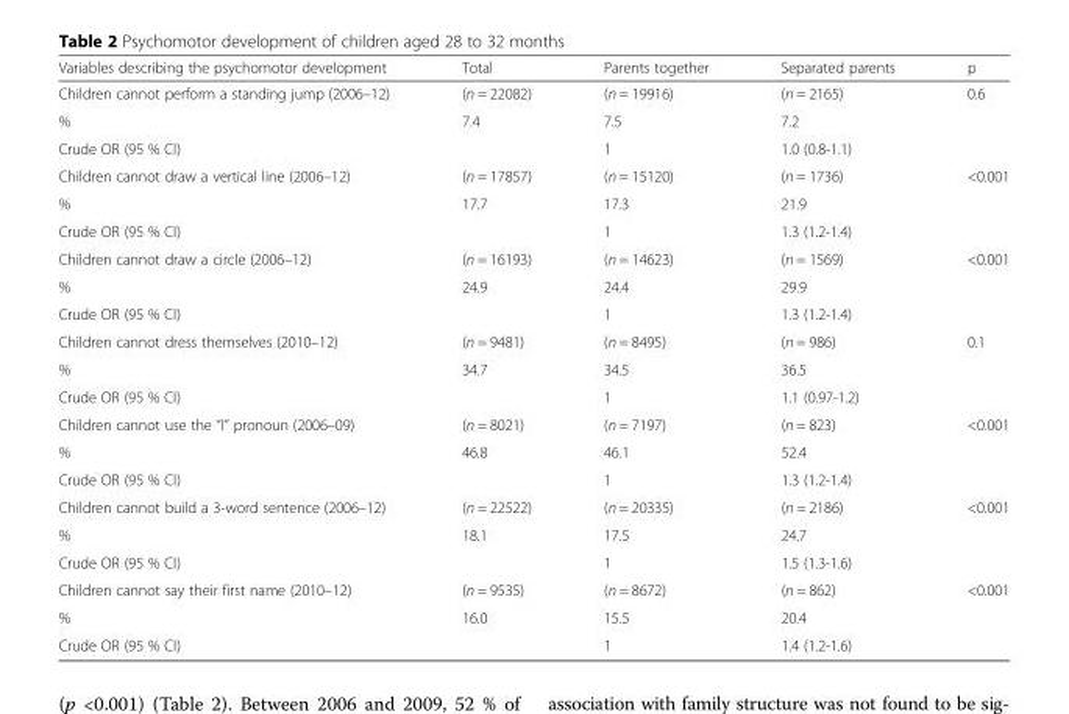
<table><thead><tr><td>Variables describing the psychomotor development</td><td>Total</td><td>Parents together</td><td>Separated parents</td><td>p</td></tr></thead><tbody><tr><td>Children cannot perform a standing jump (2006–12)</td><td>(n = 22082)</td><td>(n = 19916)</td><td>(n = 2165)</td><td rowspan="3">0.6</td></tr><tr><td>%</td><td>7.4</td><td>7.5</td><td>7.2</td></tr><tr><td>Crude OR (95 % CI)</td><td></td><td>1</td><td>1.0 (0.8-1.1)</td></tr><tr><td>Children cannot draw a vertical line (2006–12)</td><td>(n = 17857)</td><td>(n = 15120)</td><td>(n = 1736)</td><td rowspan="3">&lt;0.001</td></tr><tr><td>%</td><td>17.7</td><td>17.3</td><td>21.9</td></tr><tr><td>Crude OR (95 % CI)</td><td></td><td>1</td><td>1.3 (1.2-1.4)</td></tr><tr><td>Children cannot draw a circle (2006–12)</td><td>(n = 16193)</td><td>(n = 14623)</td><td>(n = 1569)</td><td rowspan="3">&lt;0.001</td></tr><tr><td>%</td><td>24.9</td><td>24.4</td><td>29.9</td></tr><tr><td>Crude OR (95 % CI)</td><td></td><td>1</td><td>1.3 (1.2-1.4)</td></tr><tr><td>Children cannot dress themselves (2010–12)</td><td>(n = 9481)</td><td>(n = 8495)</td><td>(n = 986)</td><td rowspan="3">0.1</td></tr><tr><td>%</td><td>34.7</td><td>34.5</td><td>36.5</td></tr><tr><td>Crude OR (95 % CI)</td><td></td><td>1</td><td>1.1 (0.97-1.2)</td></tr><tr><td>Children cannot use the “I” pronoun (2006–09)</td><td>(n = 8021)</td><td>(n = 7197)</td><td>(n = 823)</td><td rowspan="3">&lt;0.001</td></tr><tr><td>%</td><td>46.8</td><td>46.1</td><td>52.4</td></tr><tr><td>Crude OR (95 % CI)</td><td></td><td>1</td><td>1.3 (1.2-1.4)</td></tr><tr><td>Children cannot build a 3-word sentence (2006–12)</td><td>(n = 22522)</td><td>(n = 20335)</td><td>(n = 2186)</td><td rowspan="3">&lt;0.001</td></tr><tr><td>%</td><td>18.1</td><td>17.5</td><td>24.7</td></tr><tr><td>Crude OR (95 % CI)</td><td></td><td>1</td><td>1.5 (1.3-1.6)</td></tr><tr><td>Children cannot say their first name (2010–12)</td><td>(n = 9535)</td><td>(n = 8672)</td><td>(n = 862)</td><td rowspan="3">&lt;0.001</td></tr><tr><td>%</td><td>16.0</td><td>15.5</td><td>20.4</td></tr><tr><td>Crude OR (95 % CI)</td><td></td><td>1</td><td>1.4 (1.2-1.6)</td></tr></tbody></table>